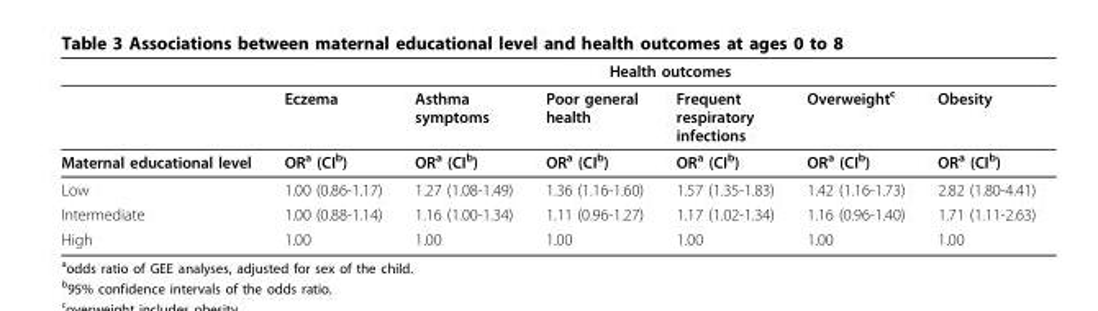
<table><thead><tr><td rowspan="2"></td><td colspan="6">Health outcomes</td></tr><tr><td>Eczema</td><td>Asthma symptoms</td><td>Poor general health</td><td>Frequent respiratory infections</td><td>Overweight<sup>c</sup></td><td>Obesity</td></tr></thead><tbody><tr><td>Maternal educational level</td><td>OR<sup>a</sup> (CI<sup>b</sup>)</td><td>OR<sup>a</sup> (CI<sup>b</sup>)</td><td>OR<sup>a</sup> (CI<sup>b</sup>)</td><td>OR<sup>a</sup> (CI<sup>b</sup>)</td><td>OR<sup>a</sup> (CI<sup>b</sup>)</td><td>OR<sup>a</sup> (CI<sup>b</sup>)</td></tr><tr><td>Low</td><td>1.00 (0.86-1.17)</td><td>1.27 (1.08-1.49)</td><td>1.36 (1.16-1.60)</td><td>1.57 (1.35-1.83)</td><td>1.42 (1.16-1.73)</td><td>2.82 (1.80-4.41)</td></tr><tr><td>Intermediate</td><td>1.00 (0.88-1.14)</td><td>1.16 (1.00-1.34)</td><td>1.11 (0.96-1.27)</td><td>1.17 (1.02-1.34)</td><td>1.16 (0.96-1.40)</td><td>1.71 (1.11-2.63)</td></tr><tr><td>High</td><td>1.00</td><td>1.00</td><td>1.00</td><td>1.00</td><td>1.00</td><td>1.00</td></tr></tbody></table>